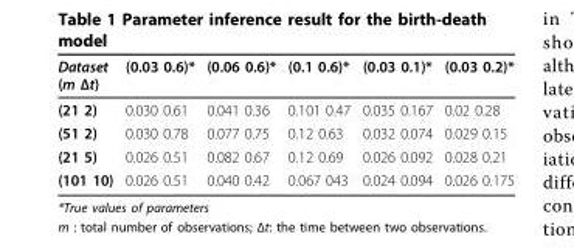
<table><thead><tr><td>Dataset (m Δt)</td><td>(0.03 0.6)*</td><td>(0.06 0.6)*</td><td>(0.1 0.6)*</td><td>(0.03 0.1)*</td><td>(0.03 0.2)*</td></tr></thead><tbody><tr><td>(21 2)</td><td>0.030 0.61</td><td>0.041 0.36</td><td>0.101 0.47</td><td>0.035 0.167</td><td>0.02 0.28</td></tr><tr><td>(51 2)</td><td>0.030 0.78</td><td>0.077 0.75</td><td>0.12 0.63</td><td>0.032 0.074</td><td>0.029 0.15</td></tr><tr><td>(21 5)</td><td>0.026 0.51</td><td>0.082 0.67</td><td>0.12 0.69</td><td>0.026 0.092</td><td>0.028 0.21</td></tr><tr><td>(101 10)</td><td>0.026 0.51</td><td>0.040 0.42</td><td>0.067 043</td><td>0.024 0.094</td><td>0.026 0.175</td></tr></tbody></table>